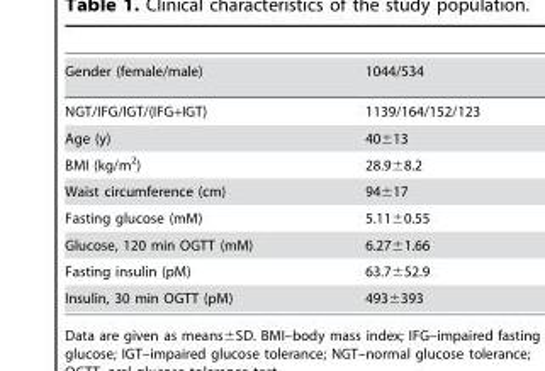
<table><tbody><tr><td>Gender (female/male)</td><td>1044/534</td></tr><tr><td>NGT/IFG/IGT/(IFG+IGT)</td><td>1139/164/152/123</td></tr><tr><td>Age (y)</td><td>40±13</td></tr><tr><td>BMI (kg/m<sup>2</sup>)</td><td>28.9±8.2</td></tr><tr><td>Waist circumference (cm)</td><td>94±17</td></tr><tr><td>Fasting glucose (mM)</td><td>5.11±0.55</td></tr><tr><td>Glucose, 120 min OGTT (mM)</td><td>6.27±1.66</td></tr><tr><td>Fasting insulin (pM)</td><td>63.7±52.9</td></tr><tr><td>Insulin, 30 min OGTT (pM)</td><td>493±393</td></tr></tbody></table>